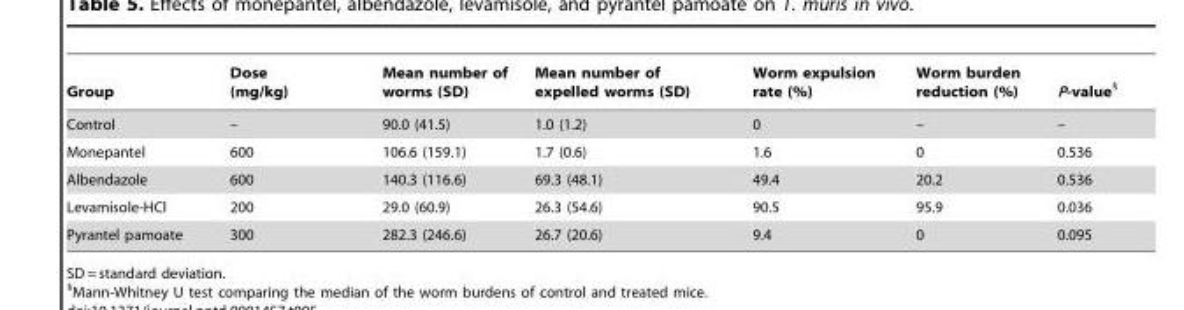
<table><thead><tr><td>Group</td><td>Dose (mg/kg)</td><td>Mean number of worms (SD)</td><td>Mean number of expelled worms (SD)</td><td>Worm expulsion rate (%)</td><td>Worm burden reduction (%)</td><td>P-value§</td></tr></thead><tbody><tr><td>Control</td><td>–</td><td>90.0 (41.5)</td><td>1.0 (1.2)</td><td>0</td><td>–</td><td>–</td></tr><tr><td>Monepantel</td><td>600</td><td>106.6 (159.1)</td><td>1.7 (0.6)</td><td>1.6</td><td>0</td><td>0.536</td></tr><tr><td>Albendazole</td><td>600</td><td>140.3 (116.6)</td><td>69.3 (48.1)</td><td>49.4</td><td>20.2</td><td>0.536</td></tr><tr><td>Levamisole-HCl</td><td>200</td><td>29.0 (60.9)</td><td>26.3 (54.6)</td><td>90.5</td><td>95.9</td><td>0.036</td></tr><tr><td>Pyrantel pamoate</td><td>300</td><td>282.3 (246.6)</td><td>26.7 (20.6)</td><td>9.4</td><td>0</td><td>0.095</td></tr></tbody></table>